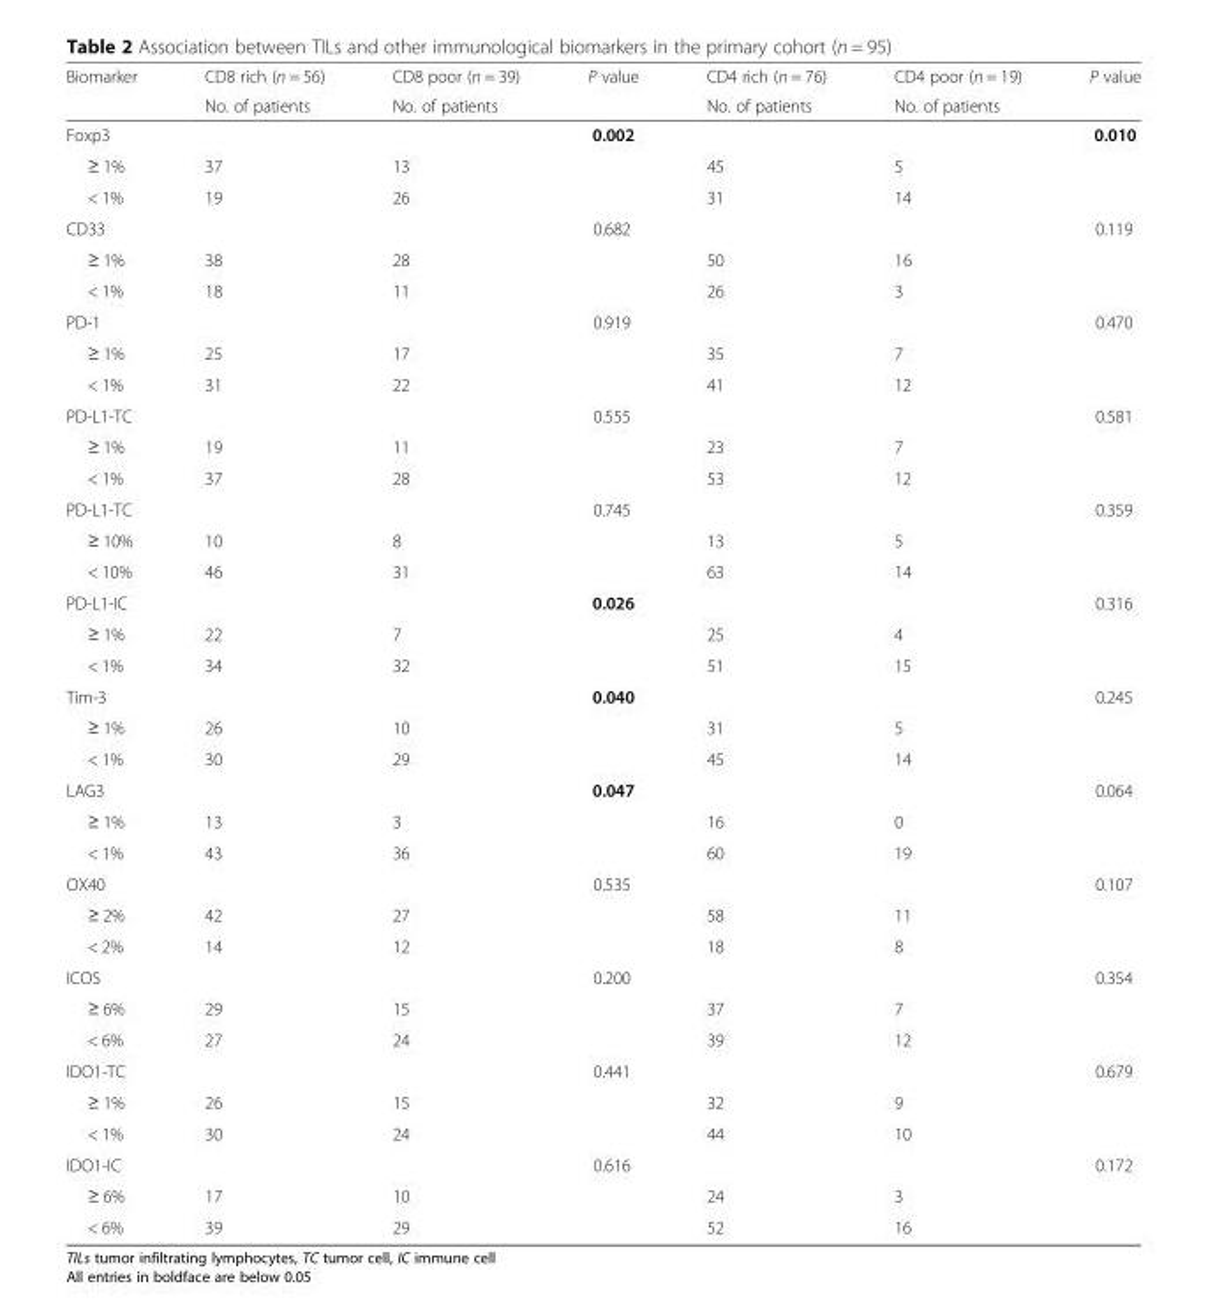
<table><thead><tr><td rowspan="2">Biomarker</td><td rowspan="2">CD8 rich (n = 56) No. of patients</td><td rowspan="2">CD8 poor (n = 39) No. of patients</td><td rowspan="2">P value</td><td rowspan="2">CD4 rich (n = 76) No. of patients</td><td rowspan="2">CD4 poor (n = 19) No. of patients</td><td rowspan="2">P value</td></tr><tr></tr></thead><tbody><tr><td>Foxp3</td><td></td><td></td><td>0.002</td><td></td><td></td><td>0.010</td></tr><tr><td>≥ 1%</td><td>37</td><td>13</td><td></td><td>45</td><td>5</td><td></td></tr><tr><td>&lt; 1%</td><td>19</td><td>26</td><td></td><td>31</td><td>14</td><td></td></tr><tr><td>CD33</td><td></td><td></td><td>0.682</td><td></td><td></td><td>0.119</td></tr><tr><td>≥ 1%</td><td>38</td><td>28</td><td></td><td>50</td><td>16</td><td></td></tr><tr><td>&lt; 1%</td><td>18</td><td>11</td><td></td><td>26</td><td>3</td><td></td></tr><tr><td>PD-1</td><td></td><td></td><td>0.919</td><td></td><td></td><td>0.470</td></tr><tr><td>≥ 1%</td><td>25</td><td>17</td><td></td><td>35</td><td>7</td><td></td></tr><tr><td>&lt; 1%</td><td>31</td><td>22</td><td></td><td>41</td><td>12</td><td></td></tr><tr><td>PD-L1-TC</td><td></td><td></td><td>0.555</td><td></td><td></td><td>0.581</td></tr><tr><td>≥ 1%</td><td>19</td><td>11</td><td></td><td>23</td><td>7</td><td></td></tr><tr><td>&lt; 1%</td><td>37</td><td>28</td><td></td><td>53</td><td>12</td><td></td></tr><tr><td>PD-L1-TC</td><td></td><td></td><td>0.745</td><td></td><td></td><td>0.359</td></tr><tr><td>≥ 10%</td><td>10</td><td>8</td><td></td><td>13</td><td>5</td><td></td></tr><tr><td>&lt; 10%</td><td>46</td><td>31</td><td></td><td>63</td><td>14</td><td></td></tr><tr><td>PD-L1-IC</td><td></td><td></td><td>0.026</td><td></td><td></td><td>0.316</td></tr><tr><td>≥ 1%</td><td>22</td><td>7</td><td></td><td>25</td><td>4</td><td></td></tr><tr><td>&lt; 1%</td><td>34</td><td>32</td><td></td><td>51</td><td>15</td><td></td></tr><tr><td>Tim-3</td><td></td><td></td><td>0.040</td><td></td><td></td><td>0.245</td></tr><tr><td>≥ 1%</td><td>26</td><td>10</td><td></td><td>31</td><td>5</td><td></td></tr><tr><td>&lt; 1%</td><td>30</td><td>29</td><td></td><td>45</td><td>14</td><td></td></tr><tr><td>LAG3</td><td></td><td></td><td>0.047</td><td></td><td></td><td>0.064</td></tr><tr><td>≥ 1%</td><td>13</td><td>3</td><td></td><td>16</td><td>0</td><td></td></tr><tr><td>&lt; 1%</td><td>43</td><td>36</td><td></td><td>60</td><td>19</td><td></td></tr><tr><td>OX40</td><td></td><td></td><td>0.535</td><td></td><td></td><td>0.107</td></tr><tr><td>≥ 2%</td><td>42</td><td>27</td><td></td><td>58</td><td>11</td><td></td></tr><tr><td>&lt; 2%</td><td>14</td><td>12</td><td></td><td>18</td><td>8</td><td></td></tr><tr><td>ICOS</td><td></td><td></td><td>0.200</td><td></td><td></td><td>0.354</td></tr><tr><td>≥ 6%</td><td>29</td><td>15</td><td></td><td>37</td><td>7</td><td></td></tr><tr><td>&lt; 6%</td><td>27</td><td>24</td><td></td><td>39</td><td>12</td><td></td></tr><tr><td>IDO1-TC</td><td></td><td></td><td>0.441</td><td></td><td></td><td>0.679</td></tr><tr><td>≥ 1%</td><td>26</td><td>15</td><td></td><td>32</td><td>9</td><td></td></tr><tr><td>&lt; 1%</td><td>30</td><td>24</td><td></td><td>44</td><td>10</td><td></td></tr><tr><td>IDO1-IC</td><td></td><td></td><td>0.616</td><td></td><td></td><td>0.172</td></tr><tr><td>≥ 6%</td><td>17</td><td>10</td><td></td><td>24</td><td>3</td><td></td></tr><tr><td>&lt; 6%</td><td>39</td><td>29</td><td></td><td>52</td><td>16</td><td></td></tr></tbody></table>